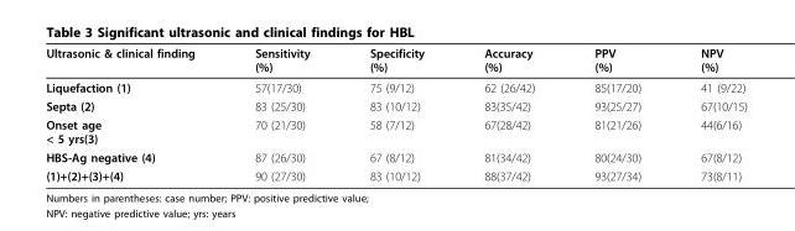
<table><thead><tr><td>Ultrasonic &amp; clinical finding</td><td>Sensitivity (%)</td><td>Specificity (%)</td><td>Accuracy (%)</td><td>PPV (%)</td><td>NPV (%)</td></tr></thead><tbody><tr><td>Liquefaction (1)</td><td>57(17/30)</td><td>75 (9/12)</td><td>62 (26/42)</td><td>85(17/20)</td><td>41 (9/22)</td></tr><tr><td>Septa (2)</td><td>83 (25/30)</td><td>83 (10/12)</td><td>83(35/42)</td><td>93(25/27)</td><td>67(10/15)</td></tr><tr><td>Onset age &lt; 5 yrs(3)</td><td>70 (21/30)</td><td>58 (7/12)</td><td>67(28/42)</td><td>81(21/26)</td><td>44(6/16)</td></tr><tr><td>HBS-Ag negative (4)</td><td>87 (26/30)</td><td>67 (8/12)</td><td>81(34/42)</td><td>80(24/30)</td><td>67(8/12)</td></tr><tr><td>(1)+(2)+(3)+(4)</td><td>90 (27/30)</td><td>83 (10/12)</td><td>88(37/42)</td><td>93(27/34)</td><td>73(8/11)</td></tr></tbody></table>